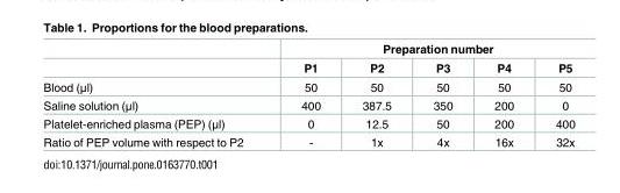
<table><thead><tr><td rowspan="2"></td><td colspan="5">Preparation number</td></tr><tr><td>P1</td><td>P2</td><td>P3</td><td>P4</td><td>P5</td></tr></thead><tbody><tr><td>Blood (μl)</td><td>50</td><td>50</td><td>50</td><td>50</td><td>50</td></tr><tr><td>Saline solution (μl)</td><td>400</td><td>387.5</td><td>350</td><td>200</td><td>0</td></tr><tr><td>Platelet-enriched plasma (PEP) (μl)</td><td>0</td><td>12.5</td><td>50</td><td>200</td><td>400</td></tr><tr><td>Ratio of PEP volume with respect to P2</td><td>-</td><td>1x</td><td>4x</td><td>16x</td><td>32x</td></tr></tbody></table>